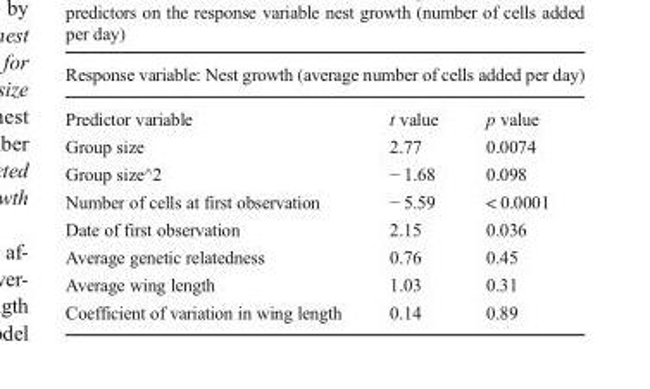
<table><thead><tr><td colspan="3">Response variable: Nest growth (average number of cells added per day)</td></tr><tr><td>Predictor variable</td><td>t value</td><td>p value</td></tr></thead><tbody><tr><td>Group size</td><td>2.77</td><td>0.0074</td></tr><tr><td>Group size^2</td><td>− 1.68</td><td>0.098</td></tr><tr><td>Number of cells at first observation</td><td>− 5.59</td><td>&lt; 0.0001</td></tr><tr><td>Date of first observation</td><td>2.15</td><td>0.036</td></tr><tr><td>Average genetic relatedness</td><td>0.76</td><td>0.45</td></tr><tr><td>Average wing length</td><td>1.03</td><td>0.31</td></tr><tr><td>Coefficient of variation in wing length</td><td>0.14</td><td>0.89</td></tr></tbody></table>